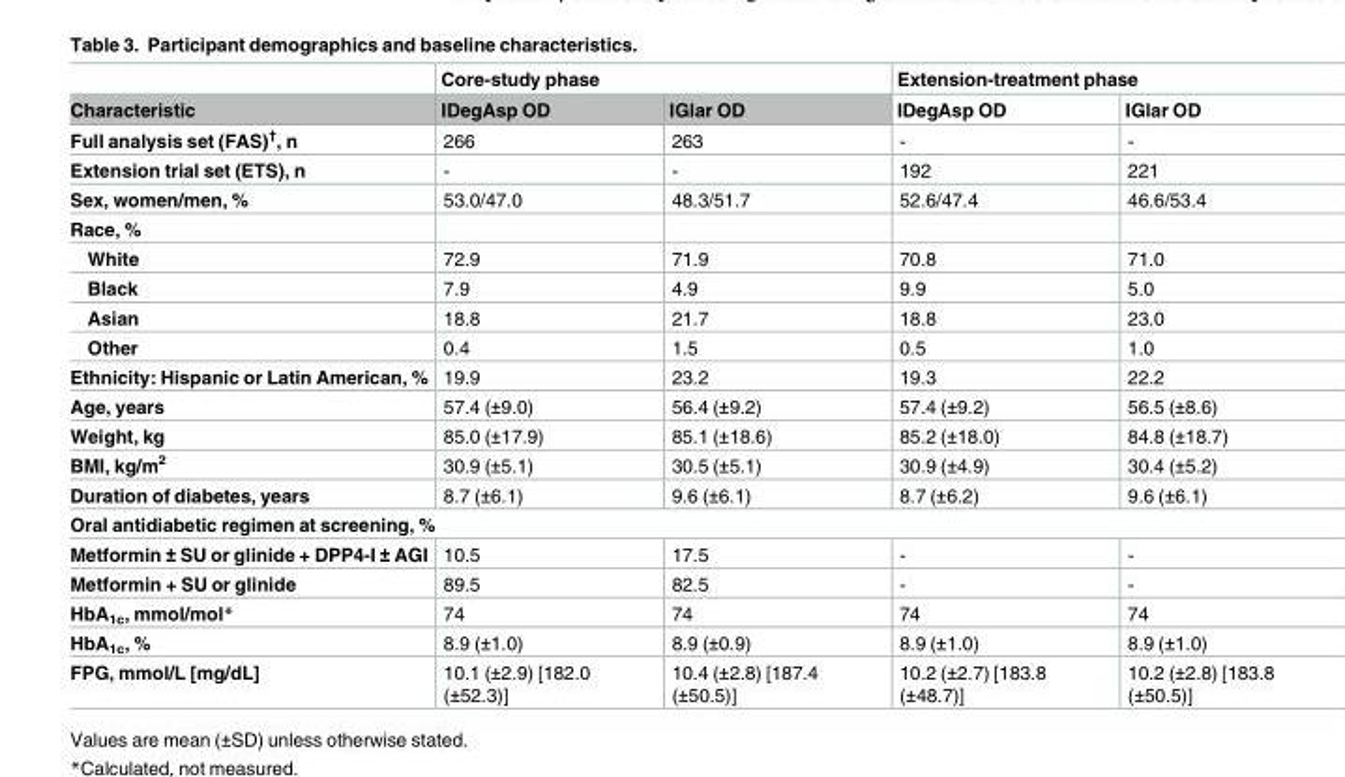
<table><thead><tr><td rowspan="2">Characteristic</td><td colspan="2">Core-study phase</td><td colspan="2">Extension-treatment phase</td></tr><tr><td>IDegAsp OD</td><td>IGlar OD</td><td>IDegAsp OD</td><td>IGlar OD</td></tr></thead><tbody><tr><td>Full analysis set (FAS)<sup>†</sup>, n</td><td>266</td><td>263</td><td>-</td><td>-</td></tr><tr><td>Extension trial set (ETS), n</td><td>-</td><td>-</td><td>192</td><td>221</td></tr><tr><td>Sex, women/men, %</td><td>53.0/47.0</td><td>48.3/51.7</td><td>52.6/47.4</td><td>46.6/53.4</td></tr><tr><td colspan="5">Race, %</td></tr><tr><td>White</td><td>72.9</td><td>71.9</td><td>70.8</td><td>71.0</td></tr><tr><td>Black</td><td>7.9</td><td>4.9</td><td>9.9</td><td>5.0</td></tr><tr><td>Asian</td><td>18.8</td><td>21.7</td><td>18.8</td><td>23.0</td></tr><tr><td>Other</td><td>0.4</td><td>1.5</td><td>0.5</td><td>1.0</td></tr><tr><td>Ethnicity: Hispanic or Latin American, %</td><td>19.9</td><td>23.2</td><td>19.3</td><td>22.2</td></tr><tr><td>Age, years</td><td>57.4 (±9.0)</td><td>56.4 (±9.2)</td><td>57.4 (±9.2)</td><td>56.5 (±8.6)</td></tr><tr><td>Weight, kg</td><td>85.0 (±17.9)</td><td>85.1 (±18.6)</td><td>85.2 (±18.0)</td><td>84.8 (±18.7)</td></tr><tr><td>BMI, kg/m<sup>2</sup></td><td>30.9 (±5.1)</td><td>30.5 (±5.1)</td><td>30.9 (±4.9)</td><td>30.4 (±5.2)</td></tr><tr><td>Duration of diabetes, years</td><td>8.7 (±6.1)</td><td>9.6 (±6.1)</td><td>8.7 (±6.2)</td><td>9.6 (±6.1)</td></tr><tr><td colspan="5">Oral antidiabetic regimen at screening, %</td></tr><tr><td>Metformin ± SU or glinide + DPP4-I ± AGI</td><td>10.5</td><td>17.5</td><td>-</td><td>-</td></tr><tr><td>Metformin + SU or glinide</td><td>89.5</td><td>82.5</td><td>-</td><td>-</td></tr><tr><td>HbA<sub>1c</sub>, mmol/mol*</td><td>74</td><td>74</td><td>74</td><td>74</td></tr><tr><td>HbA<sub>1c</sub>, %</td><td>8.9 (±1.0)</td><td>8.9 (±0.9)</td><td>8.9 (±1.0)</td><td>8.9 (±1.0)</td></tr><tr><td>FPG, mmol/L [mg/dL]</td><td>10.1 (±2.9) [182.0 (±52.3)]</td><td>10.4 (±2.8) [187.4 (±50.5)]</td><td>10.2 (±2.7) [183.8 (±48.7)]</td><td>10.2 (±2.8) [183.8 (±50.5)]</td></tr></tbody></table>